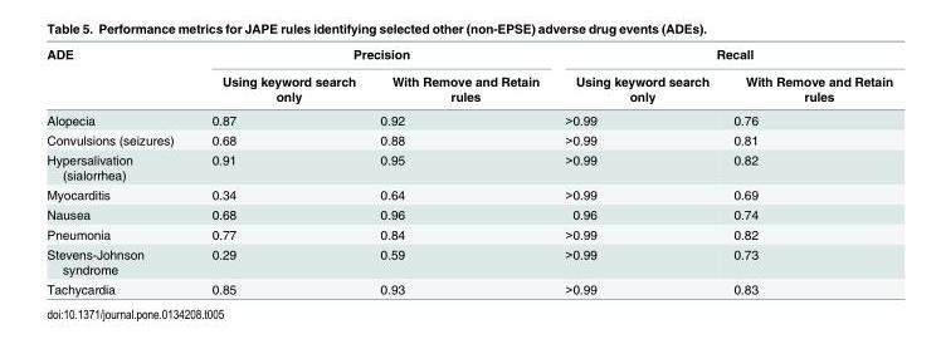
<table><thead><tr><td rowspan="2">ADE</td><td colspan="2">Precision</td><td colspan="2">Recall</td></tr><tr><td>Using keyword search only</td><td>With Remove and Retain rules</td><td>Using keyword search only</td><td>With Remove and Retain rules</td></tr></thead><tbody><tr><td>Alopecia</td><td>0.87</td><td>0.92</td><td>&gt;0.99</td><td>0.76</td></tr><tr><td>Convulsions (seizures)</td><td>0.68</td><td>0.88</td><td>&gt;0.99</td><td>0.81</td></tr><tr><td>Hypersalivation (sialorrhea)</td><td>0.91</td><td>0.95</td><td>&gt;0.99</td><td>0.82</td></tr><tr><td>Myocarditis</td><td>0.34</td><td>0.64</td><td>&gt;0.99</td><td>0.69</td></tr><tr><td>Nausea</td><td>0.68</td><td>0.96</td><td>0.96</td><td>0.74</td></tr><tr><td>Pneumonia</td><td>0.77</td><td>0.84</td><td>&gt;0.99</td><td>0.82</td></tr><tr><td>Stevens-Johnson syndrome</td><td>0.29</td><td>0.59</td><td>&gt;0.99</td><td>0.73</td></tr><tr><td>Tachycardia</td><td>0.85</td><td>0.93</td><td>&gt;0.99</td><td>0.83</td></tr></tbody></table>